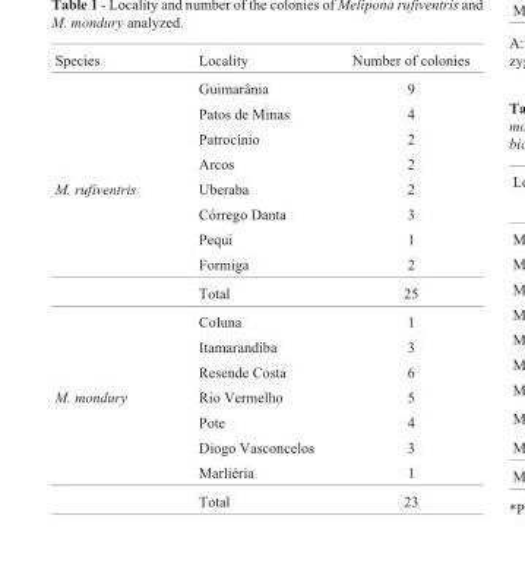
<table><thead><tr><td>Species</td><td>Locality</td><td>Number of colonies</td></tr></thead><tbody><tr><td></td><td>Guimarânia</td><td>9</td></tr><tr><td></td><td>Patos de Minas</td><td>4</td></tr><tr><td></td><td>Patrocínio</td><td>2</td></tr><tr><td></td><td>Arcos</td><td>2</td></tr><tr><td rowspan="8">M. rufiventris</td><td>Uberaba</td><td>2</td></tr><tr><td>Córrego Danta</td><td>3</td></tr><tr><td>Pequi</td><td>1</td></tr><tr><td>Formiga</td><td>2</td></tr><tr><td>Total</td><td>25</td></tr><tr><td>Coluna</td><td>1</td></tr><tr><td>Itamarandiba</td><td>3</td></tr><tr><td>Resende Costa</td><td>6</td></tr><tr><td rowspan="5">M. mondury</td><td>Rio Vermelho</td><td>5</td></tr><tr><td>Pote</td><td>4</td></tr><tr><td>Diogo Vasconcelos</td><td>3</td></tr><tr><td>Marliéria</td><td>1</td></tr><tr><td>Total</td><td>23</td></tr></tbody></table>